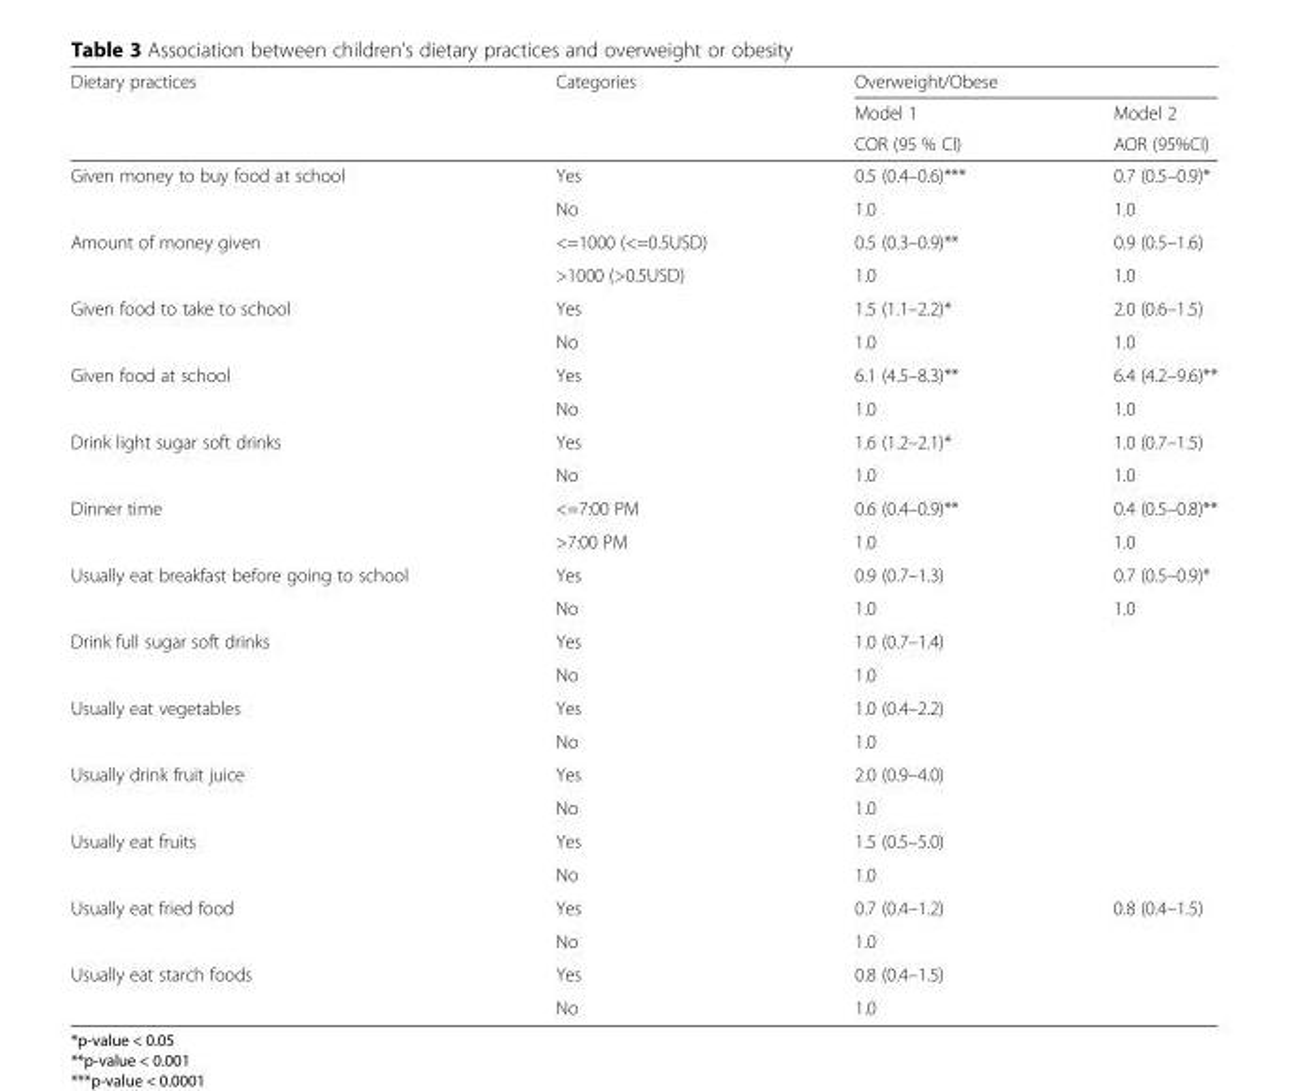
<table><thead><tr><td rowspan="3">Dietary practices</td><td rowspan="3">Categories</td><td colspan="2">Overweight/Obese</td></tr><tr><td rowspan="2">Model 1 COR (95 % CI)</td><td rowspan="2">Model 2 AOR (95%CI)</td></tr><tr></tr></thead><tbody><tr><td rowspan="2">Given money to buy food at school</td><td>Yes</td><td>0.5 (0.4–0.6)***</td><td>0.7 (0.5–0.9)*</td></tr><tr><td>No</td><td>1.0</td><td>1.0</td></tr><tr><td rowspan="2">Amount of money given</td><td>&lt;=1000 (&lt;=0.5USD)</td><td>0.5 (0.3–0.9)**</td><td>0.9 (0.5–1.6)</td></tr><tr><td>&gt;1000 (&gt;0.5USD)</td><td>1.0</td><td>1.0</td></tr><tr><td rowspan="2">Given food to take to school</td><td>Yes</td><td>1.5 (1.1–2.2)*</td><td>2.0 (0.6–1.5)</td></tr><tr><td>No</td><td>1.0</td><td>1.0</td></tr><tr><td rowspan="2">Given food at school</td><td>Yes</td><td>6.1 (4.5–8.3)**</td><td>6.4 (4.2–9.6)**</td></tr><tr><td>No</td><td>1.0</td><td>1.0</td></tr><tr><td rowspan="2">Drink light sugar soft drinks</td><td>Yes</td><td>1.6 (1.2–2.1)*</td><td>1.0 (0.7–1.5)</td></tr><tr><td>No</td><td>1.0</td><td>1.0</td></tr><tr><td rowspan="2">Dinner time</td><td>&lt;=7:00 PM</td><td>0.6 (0.4–0.9)**</td><td>0.4 (0.5–0.8)**</td></tr><tr><td>&gt;7:00 PM</td><td>1.0</td><td>1.0</td></tr><tr><td rowspan="2">Usually eat breakfast before going to school</td><td>Yes</td><td>0.9 (0.7–1.3)</td><td>0.7 (0.5–0.9)*</td></tr><tr><td>No</td><td>1.0</td><td>1.0</td></tr><tr><td rowspan="2">Drink full sugar soft drinks</td><td>Yes</td><td>1.0 (0.7–1.4)</td><td rowspan="2"></td></tr><tr><td>No</td><td>1.0</td></tr><tr><td rowspan="2">Usually eat vegetables</td><td>Yes</td><td>1.0 (0.4–2.2)</td><td rowspan="2"></td></tr><tr><td>No</td><td>1.0</td></tr><tr><td rowspan="2">Usually drink fruit juice</td><td>Yes</td><td>2.0 (0.9–4.0)</td><td rowspan="2"></td></tr><tr><td>No</td><td>1.0</td></tr><tr><td rowspan="2">Usually eat fruits</td><td>Yes</td><td>1.5 (0.5–5.0)</td><td rowspan="2"></td></tr><tr><td>No</td><td>1.0</td></tr><tr><td rowspan="2">Usually eat fried food</td><td>Yes</td><td>0.7 (0.4–1.2)</td><td rowspan="2">0.8 (0.4–1.5)</td></tr><tr><td>No</td><td>1.0</td></tr><tr><td rowspan="2">Usually eat starch foods</td><td>Yes</td><td>0.8 (0.4–1.5)</td><td rowspan="2"></td></tr><tr><td>No</td><td>1.0</td></tr></tbody></table>